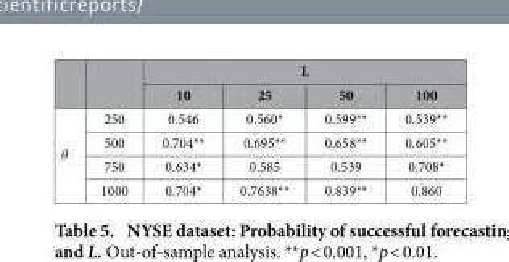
<table><thead><tr><td rowspan="2"></td><td rowspan="2"></td><td colspan="4">L</td></tr><tr><td>10</td><td>25</td><td>50</td><td>100</td></tr></thead><tbody><tr><td rowspan="4">θ</td><td>250</td><td>0.546</td><td>0.560*</td><td>0.599**</td><td>0.539**</td></tr><tr><td>500</td><td>0.704**</td><td>0.695**</td><td>0.658**</td><td>0.605**</td></tr><tr><td>750</td><td>0.634*</td><td>0.585</td><td>0.539</td><td>0.708*</td></tr><tr><td>1000</td><td>0.704*</td><td>0.7638**</td><td>0.839**</td><td>0.860</td></tr></tbody></table>